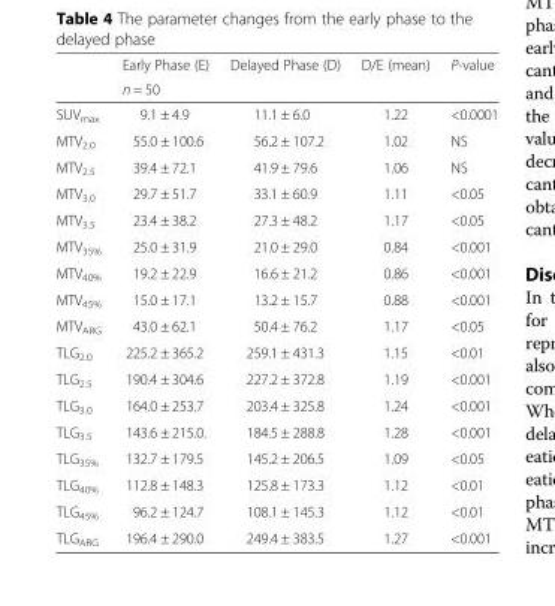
<table><thead><tr><td rowspan="2"></td><td>Early Phase (E)</td><td>Delayed Phase (D)</td><td>D/E (mean)</td><td>P-value</td></tr><tr><td colspan="4">n = 50</td></tr></thead><tbody><tr><td>SUV<sub>max</sub></td><td>9.1 ± 4.9</td><td>11.1 ± 6.0</td><td>1.22</td><td>&lt;0.0001</td></tr><tr><td>MTV<sub>2.0</sub></td><td>55.0 ± 100.6</td><td>56.2 ± 107.2</td><td>1.02</td><td>NS</td></tr><tr><td>MTV<sub>2.5</sub></td><td>39.4 ± 72.1</td><td>41.9 ± 79.6</td><td>1.06</td><td>NS</td></tr><tr><td>MTV<sub>3.0</sub></td><td>29.7 ± 51.7</td><td>33.1 ± 60.9</td><td>1.11</td><td>&lt;0.05</td></tr><tr><td>MTV<sub>3.5</sub></td><td>23.4 ± 38.2</td><td>27.3 ± 48.2</td><td>1.17</td><td>&lt;0.05</td></tr><tr><td>MTV<sub>35%</sub></td><td>25.0 ± 31.9</td><td>21.0 ± 29.0</td><td>0.84</td><td>&lt;0.001</td></tr><tr><td>MTV<sub>40%</sub></td><td>19.2 ± 22.9</td><td>16.6 ± 21.2</td><td>0.86</td><td>&lt;0.001</td></tr><tr><td>MTV<sub>45%</sub></td><td>15.0 ± 17.1</td><td>13.2 ± 15.7</td><td>0.88</td><td>&lt;0.001</td></tr><tr><td>MTV<sub>ARG</sub></td><td>43.0 ± 62.1</td><td>50.4 ± 76.2</td><td>1.17</td><td>&lt;0.05</td></tr><tr><td>TLG<sub>2.0</sub></td><td>225.2 ± 365.2</td><td>259.1 ± 431.3</td><td>1.15</td><td>&lt;0.01</td></tr><tr><td>TLG<sub>2.5</sub></td><td>190.4 ± 304.6</td><td>227.2 ± 372.8</td><td>1.19</td><td>&lt;0.001</td></tr><tr><td>TLG<sub>3.0</sub></td><td>164.0 ± 253.7</td><td>203.4 ± 325.8</td><td>1.24</td><td>&lt;0.001</td></tr><tr><td>TLG<sub>3.5</sub></td><td>143.6 ± 215.0.</td><td>184.5 ± 288.8</td><td>1.28</td><td>&lt;0.001</td></tr><tr><td>TLG<sub>35%</sub></td><td>132.7 ± 179.5</td><td>145.2 ± 206.5</td><td>1.09</td><td>&lt;0.05</td></tr><tr><td>TLG<sub>40%</sub></td><td>112.8 ± 148.3</td><td>125.8 ± 173.3</td><td>1.12</td><td>&lt;0.01</td></tr><tr><td>TLG<sub>45%</sub></td><td>96.2 ± 124.7</td><td>108.1 ± 145.3</td><td>1.12</td><td>&lt;0.01</td></tr><tr><td>TLG<sub>ARG</sub></td><td>196.4 ± 290.0</td><td>249.4 ± 383.5</td><td>1.27</td><td>&lt;0.001</td></tr></tbody></table>